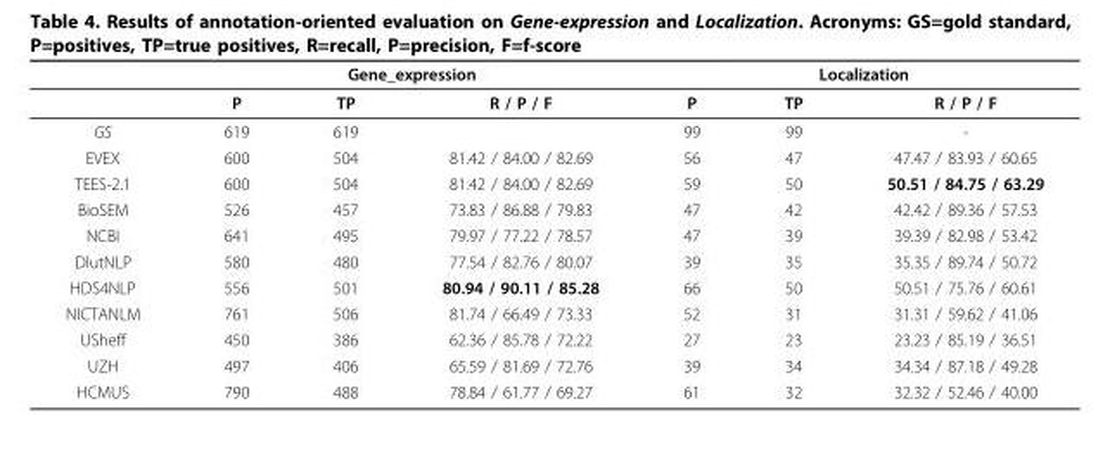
<table><thead><tr><td rowspan="2"></td><td colspan="3">Gene_expression</td><td colspan="3">Localization</td></tr><tr><td>P</td><td>TP</td><td>R / P / F</td><td>P</td><td>TP</td><td>R / P / F</td></tr></thead><tbody><tr><td>GS</td><td>619</td><td>619</td><td></td><td>99</td><td>99</td><td>-</td></tr><tr><td>EVEX</td><td>600</td><td>504</td><td>81.42 / 84.00 / 82.69</td><td>56</td><td>47</td><td>47.47 / 83.93 / 60.65</td></tr><tr><td>TEES-2.1</td><td>600</td><td>504</td><td>81.42 / 84.00 / 82.69</td><td>59</td><td>50</td><td>50.51 / 84.75 / 63.29</td></tr><tr><td>BioSEM</td><td>526</td><td>457</td><td>73.83 / 86.88 / 79.83</td><td>47</td><td>42</td><td>42.42 / 89.36 / 57.53</td></tr><tr><td>NCBI</td><td>641</td><td>495</td><td>79.97 / 77.22 / 78.57</td><td>47</td><td>39</td><td>39.39 / 82.98 / 53.42</td></tr><tr><td>DlutNLP</td><td>580</td><td>480</td><td>77.54 / 82.76 / 80.07</td><td>39</td><td>35</td><td>35.35 / 89.74 / 50.72</td></tr><tr><td>HDS4NLP</td><td>556</td><td>501</td><td>80.94 / 90.11 / 85.28</td><td>66</td><td>50</td><td>50.51 / 75.76 / 60.61</td></tr><tr><td>NICTANLM</td><td>761</td><td>506</td><td>81.74 / 66.49 / 73.33</td><td>52</td><td>31</td><td>31.31 / 59.62 / 41.06</td></tr><tr><td>USheff</td><td>450</td><td>386</td><td>62.36 / 85.78 / 72.22</td><td>27</td><td>23</td><td>23.23 / 85.19 / 36.51</td></tr><tr><td>UZH</td><td>497</td><td>406</td><td>65.59 / 81.69 / 72.76</td><td>39</td><td>34</td><td>34.34 / 87.18 / 49.28</td></tr><tr><td>HCMUS</td><td>790</td><td>488</td><td>78.84 / 61.77 / 69.27</td><td>61</td><td>32</td><td>32.32 / 52.46 / 40.00</td></tr></tbody></table>